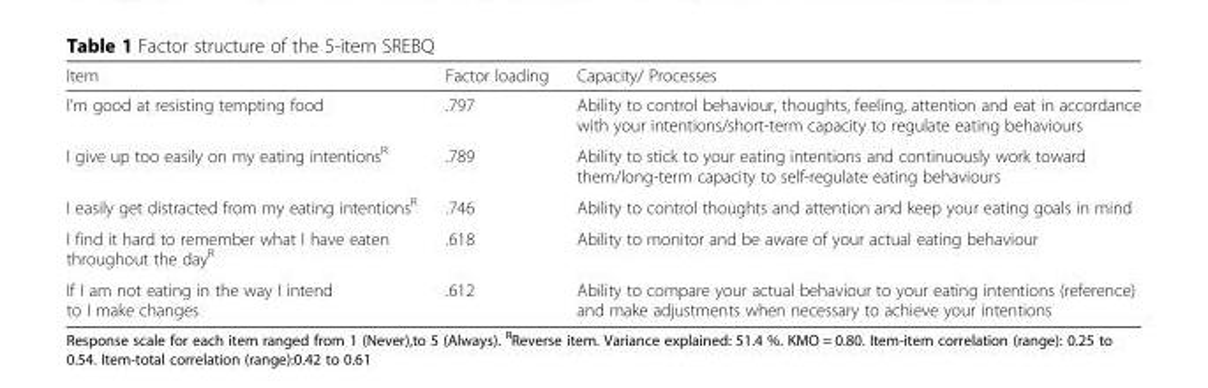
<table><thead><tr><td>Item</td><td>Factor loading</td><td>Capacity/ Processes</td></tr></thead><tbody><tr><td>I’m good at resisting tempting food</td><td>.797</td><td>Ability to control behaviour, thoughts, feeling, attention and eat in accordance with your intentions/short-term capacity to regulate eating behaviours</td></tr><tr><td>I give up too easily on my eating intentions<sup>R</sup></td><td>.789</td><td>Ability to stick to your eating intentions and continuously work toward them/long-term capacity to self-regulate eating behaviours</td></tr><tr><td>I easily get distracted from my eating intentions<sup>R</sup></td><td>.746</td><td>Ability to control thoughts and attention and keep your eating goals in mind</td></tr><tr><td>I find it hard to remember what I have eaten throughout the day<sup>R</sup></td><td>.618</td><td>Ability to monitor and be aware of your actual eating behaviour</td></tr><tr><td>If I am not eating in the way I intend to I make changes</td><td>.612</td><td>Ability to compare your actual behaviour to your eating intentions (reference) and make adjustments when necessary to achieve your intentions</td></tr></tbody></table>